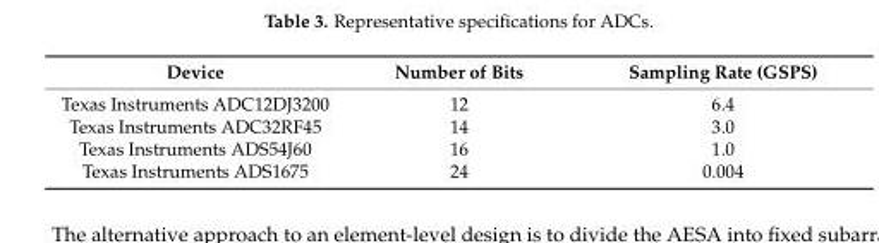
<table><thead><tr><td>Device</td><td>Number of Bits</td><td>Sampling Rate (GSPS)</td></tr></thead><tbody><tr><td>Texas Instruments ADC12DJ3200</td><td>12</td><td>6.4</td></tr><tr><td>Texas Instruments ADC32RF45</td><td>14</td><td>3.0</td></tr><tr><td>Texas Instruments ADS54J60</td><td>16</td><td>1.0</td></tr><tr><td>Texas Instruments ADS1675</td><td>24</td><td>0.004</td></tr></tbody></table>